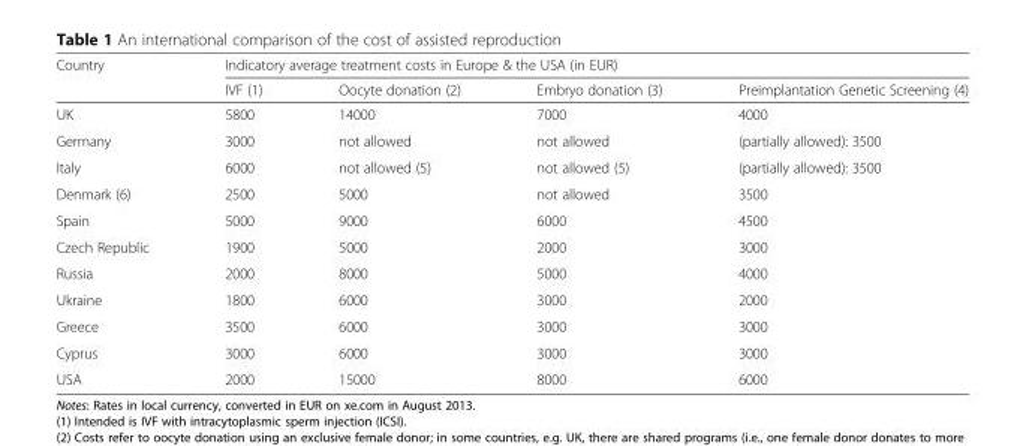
<table><thead><tr><td rowspan="2">Country</td><td colspan="4">Indicatory average treatment costs in Europe &amp; the USA (in EUR)</td></tr><tr><td>IVF (1)</td><td>Oocyte donation (2)</td><td>Embryo donation (3)</td><td>Preimplantation Genetic Screening (4)</td></tr></thead><tbody><tr><td>UK</td><td>5800</td><td>14000</td><td>7000</td><td>4000</td></tr><tr><td>Germany</td><td>3000</td><td>not allowed</td><td>not allowed</td><td>(partially allowed): 3500</td></tr><tr><td>Italy</td><td>6000</td><td>not allowed (5)</td><td>not allowed (5)</td><td>(partially allowed): 3500</td></tr><tr><td>Denmark (6)</td><td>2500</td><td>5000</td><td>not allowed</td><td>3500</td></tr><tr><td>Spain</td><td>5000</td><td>9000</td><td>6000</td><td>4500</td></tr><tr><td>Czech Republic</td><td>1900</td><td>5000</td><td>2000</td><td>3000</td></tr><tr><td>Russia</td><td>2000</td><td>8000</td><td>5000</td><td>4000</td></tr><tr><td>Ukraine</td><td>1800</td><td>6000</td><td>3000</td><td>2000</td></tr><tr><td>Greece</td><td>3500</td><td>6000</td><td>3000</td><td>3000</td></tr><tr><td>Cyprus</td><td>3000</td><td>6000</td><td>3000</td><td>3000</td></tr><tr><td>USA</td><td>2000</td><td>15000</td><td>8000</td><td>6000</td></tr></tbody></table>